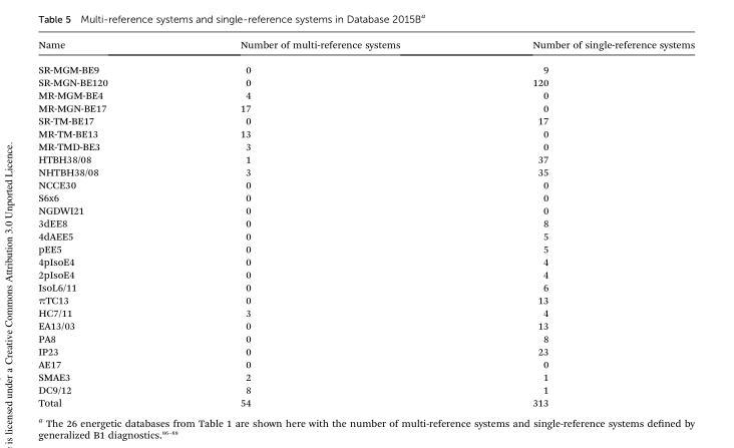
<table><thead><tr><td>Name</td><td>Number of multi-reference systems</td><td>Number of single-reference systems</td></tr></thead><tbody><tr><td>SR-MGM-BE9</td><td>0</td><td>9</td></tr><tr><td>SR-MGN-BE120</td><td>0</td><td>120</td></tr><tr><td>MR-MGM-BE4</td><td>4</td><td>0</td></tr><tr><td>MR-MGN-BE17</td><td>17</td><td>0</td></tr><tr><td>SR-TM-BE17</td><td>0</td><td>17</td></tr><tr><td>MR-TM-BE13</td><td>13</td><td>0</td></tr><tr><td>MR-TMD-BE3</td><td>3</td><td>0</td></tr><tr><td>HTBH38/08</td><td>1</td><td>37</td></tr><tr><td>NHTBH38/08</td><td>3</td><td>35</td></tr><tr><td>NCCE30</td><td>0</td><td>0</td></tr><tr><td>S6x6</td><td>0</td><td>0</td></tr><tr><td>NGDWI21</td><td>0</td><td>0</td></tr><tr><td>3dEE8</td><td>0</td><td>8</td></tr><tr><td>4dAEE5</td><td>0</td><td>5</td></tr><tr><td>pEE5</td><td>0</td><td>5</td></tr><tr><td>4pIsoE4</td><td>0</td><td>4</td></tr><tr><td>2pIsoE4</td><td>0</td><td>4</td></tr><tr><td>IsoL6/11</td><td>0</td><td>6</td></tr><tr><td>πTC13</td><td>0</td><td>13</td></tr><tr><td>HC7/11</td><td>3</td><td>4</td></tr><tr><td>EA13/03</td><td>0</td><td>13</td></tr><tr><td>PA8</td><td>0</td><td>8</td></tr><tr><td>IP23</td><td>0</td><td>23</td></tr><tr><td>AE17</td><td>0</td><td>0</td></tr><tr><td>SMAE3</td><td>2</td><td>1</td></tr><tr><td>DC9/12</td><td>8</td><td>1</td></tr><tr><td>Total</td><td>54</td><td>313</td></tr></tbody></table>